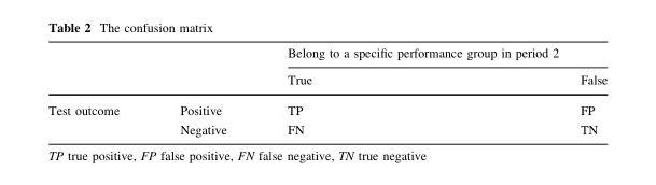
<table><thead><tr><td rowspan="2"></td><td rowspan="2"></td><td colspan="2">Belong to a specific performance group in period 2</td></tr><tr><td>True</td><td>False</td></tr></thead><tbody><tr><td rowspan="2">Test outcome</td><td>Positive</td><td>TP</td><td>FP</td></tr><tr><td>Negative</td><td>FN</td><td>TN</td></tr></tbody></table>